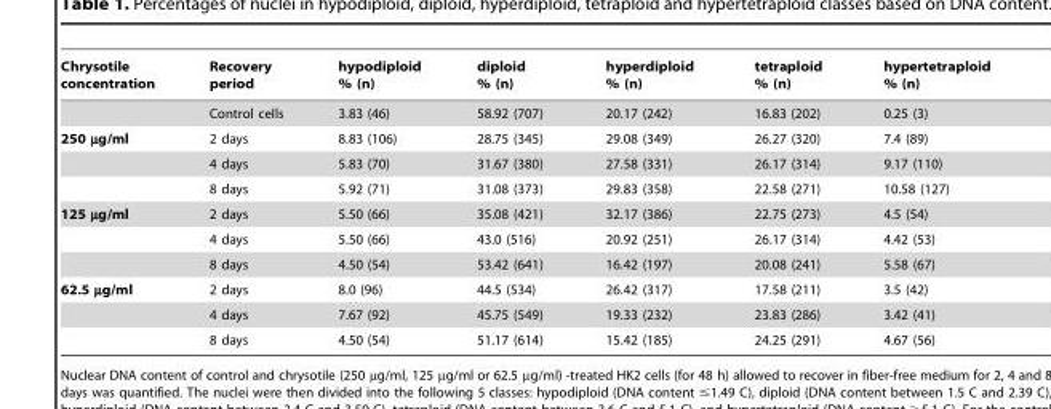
<table><thead><tr><td>Chrysotile concentration</td><td>Recovery period</td><td>hypodiploid % (n)</td><td>diploid % (n)</td><td>hyperdiploid % (n)</td><td>tetraploid % (n)</td><td>hypertetraploid % (n)</td></tr></thead><tbody><tr><td></td><td>Control cells</td><td>3.83 (46)</td><td>58.92 (707)</td><td>20.17 (242)</td><td>16.83 (202)</td><td>0.25 (3)</td></tr><tr><td rowspan="3">250 µg/ml</td><td>2 days</td><td>8.83 (106)</td><td>28.75 (345)</td><td>29.08 (349)</td><td>26.27 (320)</td><td>7.4 (89)</td></tr><tr><td>4 days</td><td>5.83 (70)</td><td>31.67 (380)</td><td>27.58 (331)</td><td>26.17 (314)</td><td>9.17 (110)</td></tr><tr><td>8 days</td><td>5.92 (71)</td><td>31.08 (373)</td><td>29.83 (358)</td><td>22.58 (271)</td><td>10.58 (127)</td></tr><tr><td rowspan="3">125 µg/ml</td><td>2 days</td><td>5.50 (66)</td><td>35.08 (421)</td><td>32.17 (386)</td><td>22.75 (273)</td><td>4.5 (54)</td></tr><tr><td>4 days</td><td>5.50 (66)</td><td>43.0 (516)</td><td>20.92 (251)</td><td>26.17 (314)</td><td>4.42 (53)</td></tr><tr><td>8 days</td><td>4.50 (54)</td><td>53.42 (641)</td><td>16.42 (197)</td><td>20.08 (241)</td><td>5.58 (67)</td></tr><tr><td rowspan="3">62.5 µg/ml</td><td>2 days</td><td>8.0 (96)</td><td>44.5 (534)</td><td>26.42 (317)</td><td>17.58 (211)</td><td>3.5 (42)</td></tr><tr><td>4 days</td><td>7.67 (92)</td><td>45.75 (549)</td><td>19.33 (232)</td><td>23.83 (286)</td><td>3.42 (41)</td></tr><tr><td>8 days</td><td>4.50 (54)</td><td>51.17 (614)</td><td>15.42 (185)</td><td>24.25 (291)</td><td>4.67 (56)</td></tr></tbody></table>